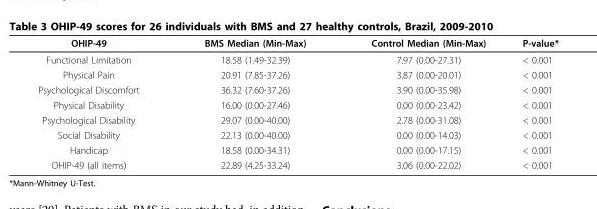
<table><thead><tr><td>OHIP-49</td><td>BMS Median (Min-Max)</td><td>Control Median (Min-Max)</td><td>P-value*</td></tr></thead><tbody><tr><td>Functional Limitation</td><td>18.58 (1.49-32.39)</td><td>7.97 (0.00-27.31)</td><td>&lt; 0.001</td></tr><tr><td>Physical Pain</td><td>20.91 (7.85-37.26)</td><td>3.87 (0.00-20.01)</td><td>&lt; 0.001</td></tr><tr><td>Psychological Discomfort</td><td>36.32 (7.60-37.26)</td><td>3.90 (0.00-35.98)</td><td>&lt; 0.001</td></tr><tr><td>Physical Disability</td><td>16.00 (0.00-27.46)</td><td>0.00 (0.00-23.42)</td><td>&lt; 0.001</td></tr><tr><td>Psychological Disability</td><td>29.07 (0.00-40.00)</td><td>2.78 (0.00-31.08)</td><td>&lt; 0.001</td></tr><tr><td>Social Disability</td><td>22.13 (0.00-40.00)</td><td>0.00 (0.00-14.03)</td><td>&lt; 0.001</td></tr><tr><td>Handicap</td><td>18.58 (0.00-34.31)</td><td>0.00 (0.00-17.15)</td><td>&lt; 0.001</td></tr><tr><td>OHIP-49 (all items)</td><td>22.89 (4.25-33.24)</td><td>3.06 (0.00-22.02)</td><td>&lt; 0.001</td></tr></tbody></table>